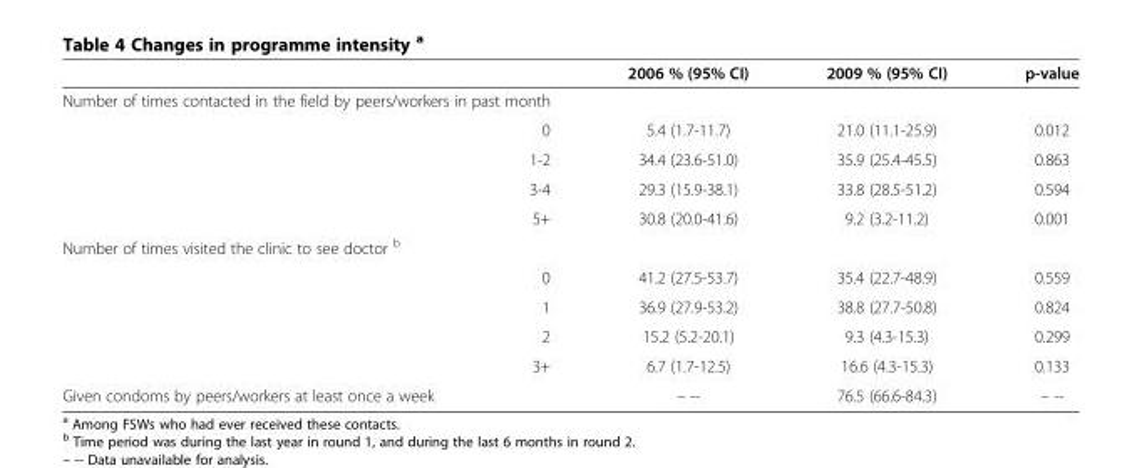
<table><thead><tr><td></td><td>2006 % (95% CI)</td><td>2009 % (95% CI)</td><td>p-value</td></tr></thead><tbody><tr><td colspan="4">Number of times contacted in the field by peers/workers in past month</td></tr><tr><td>0</td><td>5.4 (1.7-11.7)</td><td>21.0 (11.1-25.9)</td><td>0.012</td></tr><tr><td>1-2</td><td>34.4 (23.6-51.0)</td><td>35.9 (25.4-45.5)</td><td>0.863</td></tr><tr><td>3-4</td><td>29.3 (15.9-38.1)</td><td>33.8 (28.5-51.2)</td><td>0.594</td></tr><tr><td>5+</td><td>30.8 (20.0-41.6)</td><td>9.2 (3.2-11.2)</td><td>0.001</td></tr><tr><td colspan="4">Number of times visited the clinic to see doctor <sup>b</sup></td></tr><tr><td>0</td><td>41.2 (27.5-53.7)</td><td>35.4 (22.7-48.9)</td><td>0.559</td></tr><tr><td>1</td><td>36.9 (27.9-53.2)</td><td>38.8 (27.7-50.8)</td><td>0.824</td></tr><tr><td>2</td><td>15.2 (5.2-20.1)</td><td>9.3 (4.3-15.3)</td><td>0.299</td></tr><tr><td>3+</td><td>6.7 (1.7-12.5)</td><td>16.6 (4.3-15.3)</td><td>0.133</td></tr><tr><td>Given condoms by peers/workers at least once a week</td><td>– --</td><td>76.5 (66.6-84.3)</td><td>– --</td></tr></tbody></table>